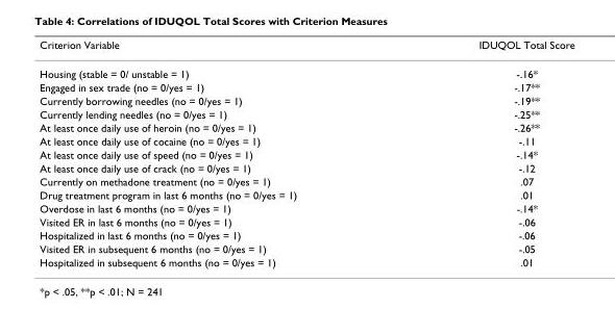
<table><thead><tr><td>Criterion Variable</td><td>IDUQOL Total Score</td></tr></thead><tbody><tr><td>Housing (stable = 0/ unstable = 1)</td><td>-.16*</td></tr><tr><td>Engaged in sex trade (no = 0/yes = 1)</td><td>-.17**</td></tr><tr><td>Currently borrowing needles (no = 0/yes = 1)</td><td>-.19**</td></tr><tr><td>Currently lending needles (no = 0/yes = 1)</td><td>-.25**</td></tr><tr><td>At least once daily use of heroin (no = 0/yes = 1)</td><td>-.26**</td></tr><tr><td>At least once daily use of cocaine (no = 0/yes = 1)</td><td>-.11</td></tr><tr><td>At least once daily use of speed (no = 0/yes = 1)</td><td>-.14*</td></tr><tr><td>At least once daily use of crack (no = 0/yes = 1)</td><td>-.12</td></tr><tr><td>Currently on methadone treatment (no = 0/yes = 1)</td><td>.07</td></tr><tr><td>Drug treatment program in last 6 months (no = 0/yes = 1)</td><td>.01</td></tr><tr><td>Overdose in last 6 months (no = 0/yes = 1)</td><td>-.14*</td></tr><tr><td>Visited ER in last 6 months (no = 0/yes = 1)</td><td>-.06</td></tr><tr><td>Hospitalized in last 6 months (no = 0/yes = 1)</td><td>-.06</td></tr><tr><td>Visited ER in subsequent 6 months (no = 0/yes = 1)</td><td>-.05</td></tr><tr><td>Hospitalized in subsequent 6 months (no = 0/yes = 1)</td><td>.01</td></tr></tbody></table>